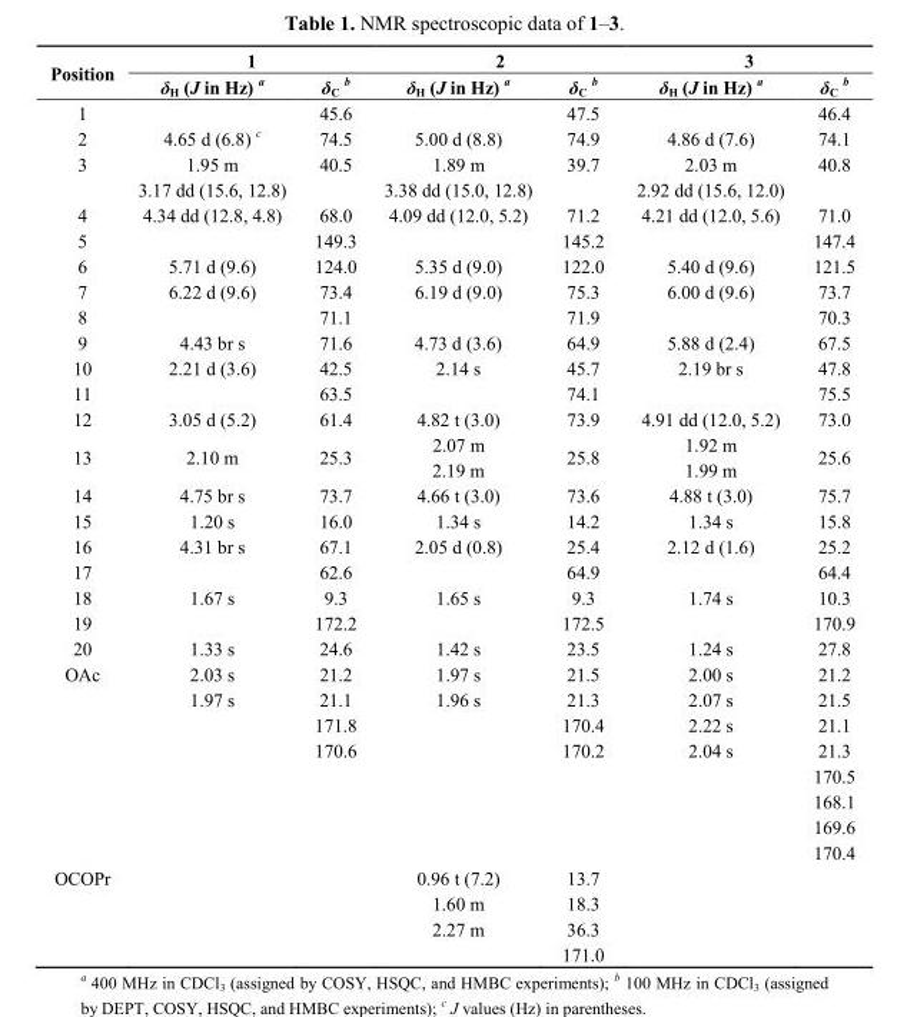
<table><thead><tr><td rowspan="2">Position</td><td colspan="2">1</td><td colspan="2">2</td><td colspan="2">3</td></tr><tr><td>δ<sub>H</sub> (J in Hz) <sup>a</sup></td><td>δ<sub>C</sub> <sup>b</sup></td><td>δ<sub>H</sub> (J in Hz) <sup>a</sup></td><td>δ<sub>C</sub> <sup>b</sup></td><td>δ<sub>H</sub> (J in Hz) <sup>a</sup></td><td>δ<sub>C</sub> <sup>b</sup></td></tr></thead><tbody><tr><td>1</td><td></td><td>45.6</td><td></td><td>47.5</td><td></td><td>46.4</td></tr><tr><td>2</td><td>4.65 d (6.8) <sup>c</sup></td><td>74.5</td><td>5.00 d (8.8)</td><td>74.9</td><td>4.86 d (7.6)</td><td>74.1</td></tr><tr><td rowspan="2">3</td><td>1.95 m</td><td>40.5</td><td>1.89 m</td><td>39.7</td><td>2.03 m</td><td>40.8</td></tr><tr><td>3.17 dd (15.6, 12.8)</td><td></td><td>3.38 dd (15.0, 12.8)</td><td></td><td>2.92 dd (15.6, 12.0)</td><td></td></tr><tr><td>4</td><td>4.34 dd (12.8, 4.8)</td><td>68.0</td><td>4.09 dd (12.0, 5.2)</td><td>71.2</td><td>4.21 dd (12.0, 5.6)</td><td>71.0</td></tr><tr><td>5</td><td></td><td>149.3</td><td></td><td>145.2</td><td></td><td>147.4</td></tr><tr><td>6</td><td>5.71 d (9.6)</td><td>124.0</td><td>5.35 d (9.0)</td><td>122.0</td><td>5.40 d (9.6)</td><td>121.5</td></tr><tr><td>7</td><td>6.22 d (9.6)</td><td>73.4</td><td>6.19 d (9.0)</td><td>75.3</td><td>6.00 d (9.6)</td><td>73.7</td></tr><tr><td>8</td><td></td><td>71.1</td><td></td><td>71.9</td><td></td><td>70.3</td></tr><tr><td>9</td><td>4.43 br s</td><td>71.6</td><td>4.73 d (3.6)</td><td>64.9</td><td>5.88 d (2.4)</td><td>67.5</td></tr><tr><td>10</td><td>2.21 d (3.6)</td><td>42.5</td><td>2.14 s</td><td>45.7</td><td>2.19 br s</td><td>47.8</td></tr><tr><td>11</td><td></td><td>63.5</td><td></td><td>74.1</td><td></td><td>75.5</td></tr><tr><td>12</td><td>3.05 d (5.2)</td><td>61.4</td><td>4.82 t (3.0)</td><td>73.9</td><td>4.91 dd (12.0, 5.2)</td><td>73.0</td></tr><tr><td>13</td><td>2.10 m</td><td>25.3</td><td>2.07 m 2.19 m</td><td>25.8</td><td>1.92 m 1.99 m</td><td>25.6</td></tr><tr><td>14</td><td>4.75 br s</td><td>73.7</td><td>4.66 t (3.0)</td><td>73.6</td><td>4.88 t (3.0)</td><td>75.7</td></tr><tr><td>15</td><td>1.20 s</td><td>16.0</td><td>1.34 s</td><td>14.2</td><td>1.34 s</td><td>15.8</td></tr><tr><td>16</td><td>4.31 br s</td><td>67.1</td><td>2.05 d (0.8)</td><td>25.4</td><td>2.12 d (1.6)</td><td>25.2</td></tr><tr><td>17</td><td></td><td>62.6</td><td></td><td>64.9</td><td></td><td>64.4</td></tr><tr><td>18</td><td>1.67 s</td><td>9.3</td><td>1.65 s</td><td>9.3</td><td>1.74 s</td><td>10.3</td></tr><tr><td>19</td><td></td><td>172.2</td><td></td><td>172.5</td><td></td><td>170.9</td></tr><tr><td>20</td><td>1.33 s</td><td>24.6</td><td>1.42 s</td><td>23.5</td><td>1.24 s</td><td>27.8</td></tr><tr><td rowspan="8">OAc</td><td>2.03 s</td><td>21.2</td><td>1.97 s</td><td>21.5</td><td>2.00 s</td><td>21.2</td></tr><tr><td>1.97 s</td><td>21.1</td><td>1.96 s</td><td>21.3</td><td>2.07 s</td><td>21.5</td></tr><tr><td></td><td>171.8</td><td></td><td>170.4</td><td>2.22 s</td><td>21.1</td></tr><tr><td></td><td>170.6</td><td></td><td>170.2</td><td>2.04 s</td><td>21.3</td></tr><tr><td></td><td></td><td></td><td></td><td></td><td>170.5</td></tr><tr><td></td><td></td><td></td><td></td><td></td><td>168.1</td></tr><tr><td></td><td></td><td></td><td></td><td></td><td>169.6</td></tr><tr><td></td><td></td><td></td><td></td><td></td><td>170.4</td></tr><tr><td rowspan="4">OCOPr</td><td></td><td></td><td>0.96 t (7.2)</td><td>13.7</td><td></td><td></td></tr><tr><td></td><td></td><td>1.60 m</td><td>18.3</td><td></td><td></td></tr><tr><td></td><td></td><td>2.27 m</td><td>36.3</td><td></td><td></td></tr><tr><td></td><td></td><td></td><td>171.0</td><td></td><td></td></tr></tbody></table>